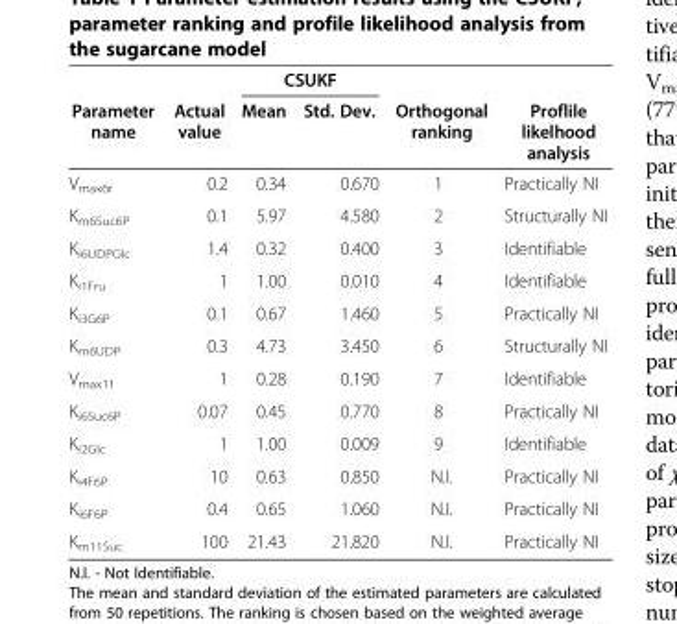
<table><thead><tr><td rowspan="2">Parameter name</td><td rowspan="2">Actual value</td><td colspan="2">CSUKF</td><td rowspan="2">Orthogonal ranking</td><td rowspan="2">Proflile likelhood analysis</td></tr><tr><td>Mean</td><td>Std. Dev.</td></tr></thead><tbody><tr><td>V<sub>max6r</sub></td><td>0.2</td><td>0.34</td><td>0.670</td><td>1</td><td>Practically NI</td></tr><tr><td>K<sub>m6Suc6P</sub></td><td>0.1</td><td>5.97</td><td>4.580</td><td>2</td><td>Structurally NI</td></tr><tr><td>K<sub>i6UDPGlc</sub></td><td>1.4</td><td>0.32</td><td>0.400</td><td>3</td><td>Identifiable</td></tr><tr><td>K<sub>i1Fru</sub></td><td>1</td><td>1.00</td><td>0.010</td><td>4</td><td>Identifiable</td></tr><tr><td>K<sub>i3G6P</sub></td><td>0.1</td><td>0.67</td><td>1.460</td><td>5</td><td>Practically NI</td></tr><tr><td>K<sub>m6UDP</sub></td><td>0.3</td><td>4.73</td><td>3.450</td><td>6</td><td>Structurally NI</td></tr><tr><td>V<sub>max11</sub></td><td>1</td><td>0.28</td><td>0.190</td><td>7</td><td>Identifiable</td></tr><tr><td>K<sub>i6Suc6P</sub></td><td>0.07</td><td>0.45</td><td>0.770</td><td>8</td><td>Practically NI</td></tr><tr><td>K<sub>i2Glc</sub></td><td>1</td><td>1.00</td><td>0.009</td><td>9</td><td>Identifiable</td></tr><tr><td>K<sub>i4F6P</sub></td><td>10</td><td>0.63</td><td>0.850</td><td>N.I.</td><td>Practically NI</td></tr><tr><td>K<sub>i6F6P</sub></td><td>0.4</td><td>0.65</td><td>1.060</td><td>N.I.</td><td>Practically NI</td></tr><tr><td>K<sub>m11Suc</sub></td><td>100</td><td>21.43</td><td>21.820</td><td>N.I.</td><td>Practically NI</td></tr></tbody></table>